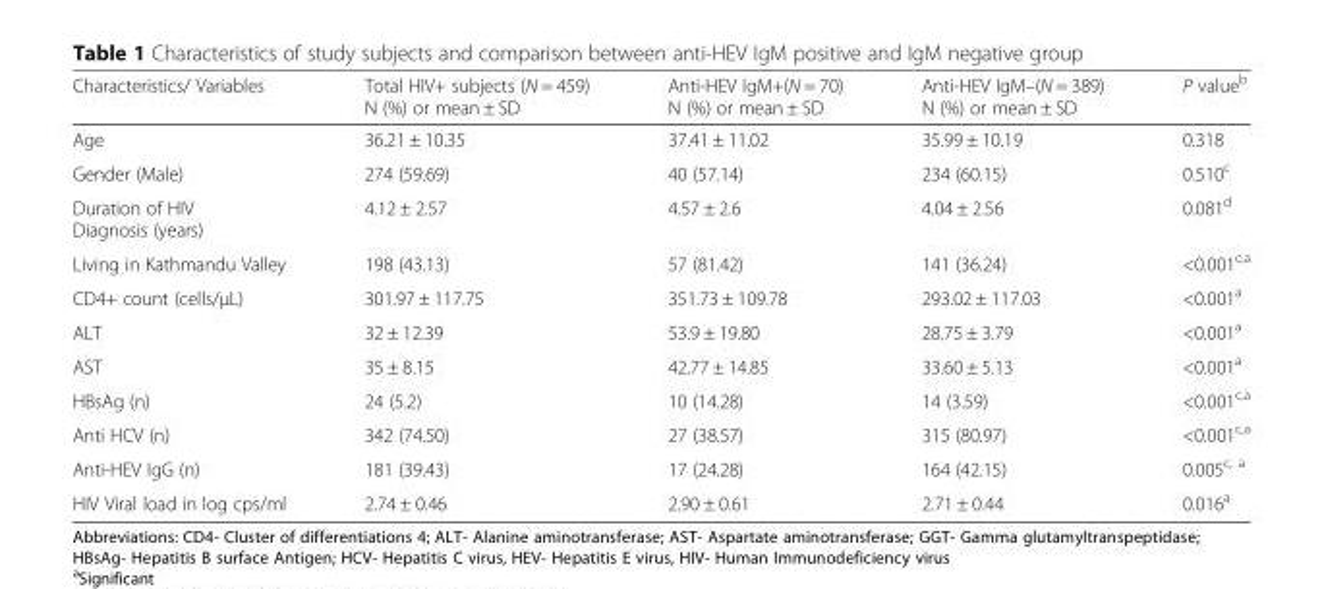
<table><thead><tr><td>Characteristics/ Variables</td><td>Total HIV+ subjects (N = 459) N (%) or mean ± SD</td><td>Anti-HEV IgM+(N = 70) N (%) or mean ± SD</td><td>Anti-HEV IgM–(N = 389) N (%) or mean ± SD</td><td>P value<sup>b</sup></td></tr></thead><tbody><tr><td>Age</td><td>36.21 ± 10.35</td><td>37.41 ± 11.02</td><td>35.99 ± 10.19</td><td>0.318</td></tr><tr><td>Gender (Male)</td><td>274 (59.69)</td><td>40 (57.14)</td><td>234 (60.15)</td><td>0.510<sup>c</sup></td></tr><tr><td>Duration of HIV Diagnosis (years)</td><td>4.12 ± 2.57</td><td>4.57 ± 2.6</td><td>4.04 ± 2.56</td><td>0.081<sup>d</sup></td></tr><tr><td>Living in Kathmandu Valley</td><td>198 (43.13)</td><td>57 (81.42)</td><td>141 (36.24)</td><td>&lt;0.001<sup>c,a</sup></td></tr><tr><td>CD4+ count (cells/μL)</td><td>301.97 ± 117.75</td><td>351.73 ± 109.78</td><td>293.02 ± 117.03</td><td>&lt;0.001<sup>a</sup></td></tr><tr><td>ALT</td><td>32 ± 12.39</td><td>53.9 ± 19.80</td><td>28.75 ± 3.79</td><td>&lt;0.001<sup>a</sup></td></tr><tr><td>AST</td><td>35 ± 8.15</td><td>42.77 ± 14.85</td><td>33.60 ± 5.13</td><td>&lt;0.001<sup>a</sup></td></tr><tr><td>HBsAg (n)</td><td>24 (5.2)</td><td>10 (14.28)</td><td>14 (3.59)</td><td>&lt;0.001<sup>c,a</sup></td></tr><tr><td>Anti HCV (n)</td><td>342 (74.50)</td><td>27 (38.57)</td><td>315 (80.97)</td><td>&lt;0.001<sup>c,a</sup></td></tr><tr><td>Anti-HEV IgG (n)</td><td>181 (39.43)</td><td>17 (24.28)</td><td>164 (42.15)</td><td>0.005<sup>c, a</sup></td></tr><tr><td>HIV Viral load in log cps/ml</td><td>2.74 ± 0.46</td><td>2.90 ± 0.61</td><td>2.71 ± 0.44</td><td>0.016<sup>a</sup></td></tr></tbody></table>